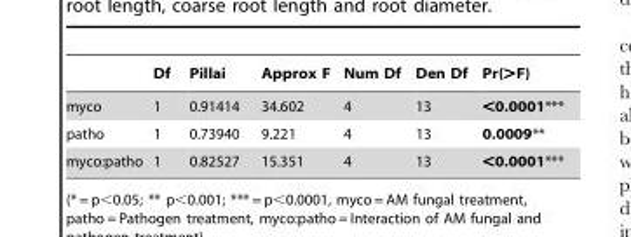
<table><thead><tr><td></td><td>Df</td><td>Pillai</td><td>Approx F</td><td>Num Df</td><td>Den Df</td><td>Pr(&gt;F)</td></tr></thead><tbody><tr><td>myco</td><td>1</td><td>0.91414</td><td>34.602</td><td>4</td><td>13</td><td>&lt;0.0001***</td></tr><tr><td>patho</td><td>1</td><td>0.73940</td><td>9.221</td><td>4</td><td>13</td><td>0.0009**</td></tr><tr><td>myco:patho</td><td>1</td><td>0.82527</td><td>15.351</td><td>4</td><td>13</td><td>&lt;0.0001***</td></tr></tbody></table>